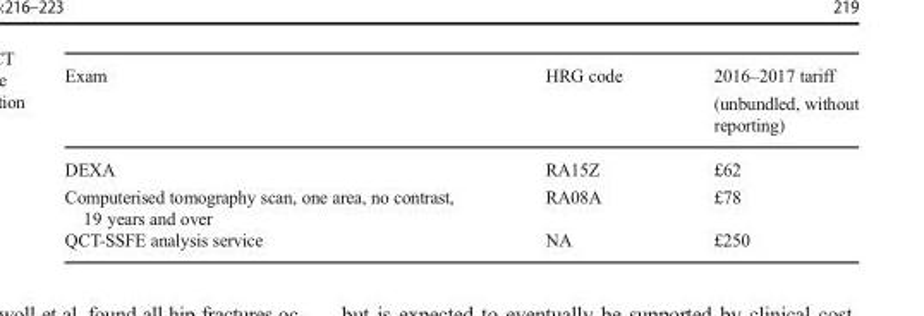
<table><thead><tr><td>Exam</td><td>HRG code</td><td>2016–2017 tariff (unbundled, without reporting)</td></tr></thead><tbody><tr><td>DEXA</td><td>RA15Z</td><td>£62</td></tr><tr><td>Computerised tomography scan, one area, no contrast, 19 years and over</td><td>RA08A</td><td>£78</td></tr><tr><td>QCT-SSFE analysis service</td><td>NA</td><td>£250</td></tr></tbody></table>